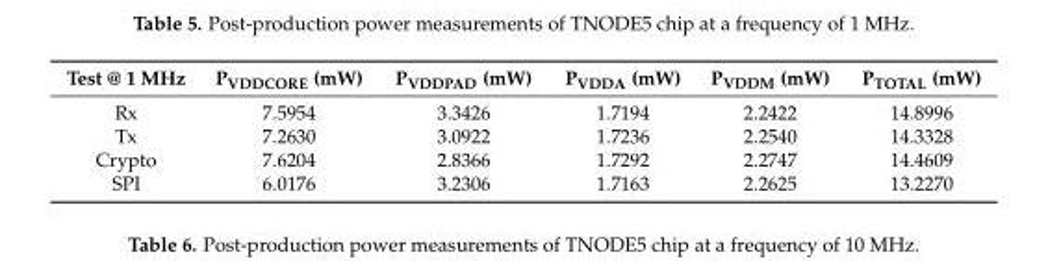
<table><thead><tr><td>Test @ 1 MHz</td><td>P<sub>VDDCORE</sub> (mW)</td><td>P<sub>VDDPAD</sub> (mW)</td><td>P<sub>VDDA</sub> (mW)</td><td>P<sub>VDDM</sub> (mW)</td><td>P<sub>TOTAL</sub> (mW)</td></tr></thead><tbody><tr><td>Rx</td><td>7.5954</td><td>3.3426</td><td>1.7194</td><td>2.2422</td><td>14.8996</td></tr><tr><td>Tx</td><td>7.2630</td><td>3.0922</td><td>1.7236</td><td>2.2540</td><td>14.3328</td></tr><tr><td>Crypto</td><td>7.6204</td><td>2.8366</td><td>1.7292</td><td>2.2747</td><td>14.4609</td></tr><tr><td>SPI</td><td>6.0176</td><td>3.2306</td><td>1.7163</td><td>2.2625</td><td>13.2270</td></tr></tbody></table>